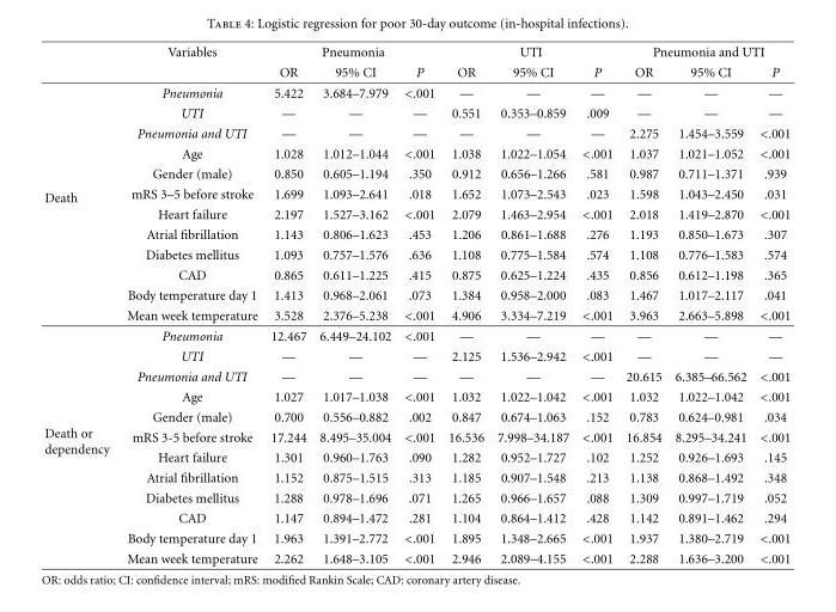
<table><thead><tr><td rowspan="2"></td><td rowspan="2">Variables</td><td colspan="3">Pneumonia</td><td colspan="3">UTI</td><td colspan="3">Pneumonia and UTI</td></tr><tr><td>OR</td><td>95% CI</td><td>P</td><td>OR</td><td>95% CI</td><td>P</td><td>OR</td><td>95% CI</td><td>P</td></tr></thead><tbody><tr><td rowspan="12">Death</td><td>Pneumonia</td><td>5.422</td><td>3.684–7.979</td><td>&lt;.001</td><td>—</td><td>—</td><td>—</td><td>—</td><td>—</td><td>—</td></tr><tr><td>UTI</td><td>—</td><td>—</td><td>—</td><td>0.551</td><td>0.353–0.859</td><td>.009</td><td>—</td><td>—</td><td>—</td></tr><tr><td>Pneumonia and UTI</td><td>—</td><td>—</td><td>—</td><td>—</td><td>—</td><td>—</td><td>2.275</td><td>1.454–3.559</td><td>&lt;.001</td></tr><tr><td>Age</td><td>1.028</td><td>1.012–1.044</td><td>&lt;.001</td><td>1.038</td><td>1.022–1.054</td><td>&lt;.001</td><td>1.037</td><td>1.021–1.052</td><td>&lt;.001</td></tr><tr><td>Gender (male)</td><td>0.850</td><td>0.605–1.194</td><td>.350</td><td>0.912</td><td>0.656–1.266</td><td>.581</td><td>0.987</td><td>0.711–1.371</td><td>.939</td></tr><tr><td>mRS 3–5 before stroke</td><td>1.699</td><td>1.093–2.641</td><td>.018</td><td>1.652</td><td>1.073–2.543</td><td>.023</td><td>1.598</td><td>1.043–2.450</td><td>.031</td></tr><tr><td>Heart failure</td><td>2.197</td><td>1.527–3.162</td><td>&lt;.001</td><td>2.079</td><td>1.463–2.954</td><td>&lt;.001</td><td>2.018</td><td>1.419–2.870</td><td>&lt;.001</td></tr><tr><td>Atrial fibrillation</td><td>1.143</td><td>0.806–1.623</td><td>.453</td><td>1.206</td><td>0.861–1.688</td><td>.276</td><td>1.193</td><td>0.850–1.673</td><td>.307</td></tr><tr><td>Diabetes mellitus</td><td>1.093</td><td>0.757–1.576</td><td>.636</td><td>1.108</td><td>0.775–1.584</td><td>.574</td><td>1.108</td><td>0.776–1.583</td><td>.574</td></tr><tr><td>CAD</td><td>0.865</td><td>0.611–1.225</td><td>.415</td><td>0.875</td><td>0.625–1.224</td><td>.435</td><td>0.856</td><td>0.612–1.198</td><td>.365</td></tr><tr><td>Body temperature day 1</td><td>1.413</td><td>0.968–2.061</td><td>.073</td><td>1.384</td><td>0.958–2.000</td><td>.083</td><td>1.467</td><td>1.017–2.117</td><td>.041</td></tr><tr><td>Mean week temperature</td><td>3.528</td><td>2.376–5.238</td><td>&lt;.001</td><td>4.906</td><td>3.334–7.219</td><td>&lt;.001</td><td>3.963</td><td>2.663–5.898</td><td>&lt;.001</td></tr><tr><td rowspan="12">Death or dependency</td><td>Pneumonia</td><td>12.467</td><td>6.449–24.102</td><td>&lt;.001</td><td>—</td><td>—</td><td>—</td><td>—</td><td>—</td><td>—</td></tr><tr><td>UTI</td><td>—</td><td>—</td><td>—</td><td>2.125</td><td>1.536–2.942</td><td>&lt;.001</td><td>—</td><td>—</td><td>—</td></tr><tr><td>Pneumonia and UTI</td><td>—</td><td>—</td><td>—</td><td>—</td><td>—</td><td>—</td><td>20.615</td><td>6.385–66.562</td><td>&lt;.001</td></tr><tr><td>Age</td><td>1.027</td><td>1.017–1.038</td><td>&lt;.001</td><td>1.032</td><td>1.022–1.042</td><td>&lt;.001</td><td>1.032</td><td>1.022–1.042</td><td>&lt;.001</td></tr><tr><td>Gender (male)</td><td>0.700</td><td>0.556–0.882</td><td>.002</td><td>0.847</td><td>0.674–1.063</td><td>.152</td><td>0.783</td><td>0.624–0.981</td><td>.034</td></tr><tr><td>mRS 3-5 before stroke</td><td>17.244</td><td>8.495–35.004</td><td>&lt;.001</td><td>16.536</td><td>7.998–34.187</td><td>&lt;.001</td><td>16.854</td><td>8.295–34.241</td><td>&lt;.001</td></tr><tr><td>Heart failure</td><td>1.301</td><td>0.960–1.763</td><td>.090</td><td>1.282</td><td>0.952–1.727</td><td>.102</td><td>1.252</td><td>0.926–1.693</td><td>.145</td></tr><tr><td>Atrial fibrillation</td><td>1.152</td><td>0.875–1.515</td><td>.313</td><td>1.185</td><td>0.907–1.548</td><td>.213</td><td>1.138</td><td>0.868–1.492</td><td>.348</td></tr><tr><td>Diabetes mellitus</td><td>1.288</td><td>0.978–1.696</td><td>.071</td><td>1.265</td><td>0.966–1.657</td><td>.088</td><td>1.309</td><td>0.997–1.719</td><td>.052</td></tr><tr><td>CAD</td><td>1.147</td><td>0.894–1.472</td><td>.281</td><td>1.104</td><td>0.864–1.412</td><td>.428</td><td>1.142</td><td>0.891–1.462</td><td>.294</td></tr><tr><td>Body temperature day 1</td><td>1.963</td><td>1.391–2.772</td><td>&lt;.001</td><td>1.895</td><td>1.348–2.665</td><td>&lt;.001</td><td>1.937</td><td>1.380–2.719</td><td>&lt;.001</td></tr><tr><td>Mean week temperature</td><td>2.262</td><td>1.648–3.105</td><td>&lt;.001</td><td>2.946</td><td>2.089–4.155</td><td>&lt;.001</td><td>2.288</td><td>1.636–3.200</td><td>&lt;.001</td></tr></tbody></table>